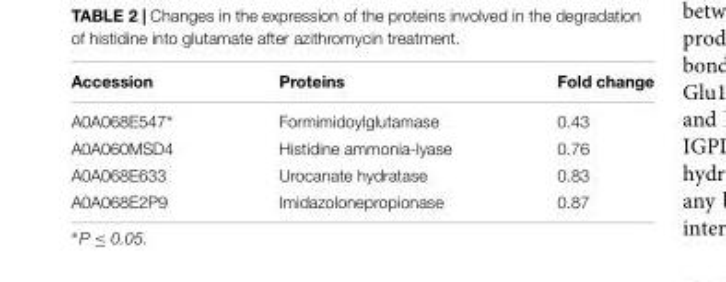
<table><thead><tr><td>Accession</td><td>Proteins</td><td>Fold change</td></tr></thead><tbody><tr><td>A0A068E547∗</td><td>Formimidoylglutamase</td><td>0.43</td></tr><tr><td>A0A060MSD4</td><td>Histidine ammonia-lyase</td><td>0.76</td></tr><tr><td>A0A068E633</td><td>Urocanate hydratase</td><td>0.83</td></tr><tr><td>A0A068E2P9</td><td>Imidazolonepropionase</td><td>0.87</td></tr></tbody></table>